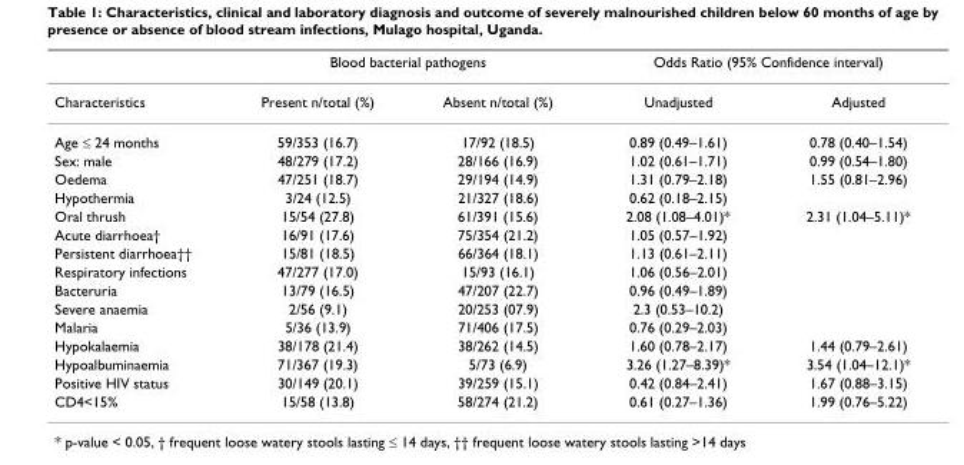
<table><thead><tr><td rowspan="2">Characteristics</td><td colspan="2">Blood bacterial pathogens</td><td colspan="2">Odds Ratio (95% Confidence interval)</td></tr><tr><td>Present n/total (%)</td><td>Absent n/total (%)</td><td>Unadjusted</td><td>Adjusted</td></tr></thead><tbody><tr><td>Age ≤ 24 months</td><td>59/353 (16.7)</td><td>17/92 (18.5)</td><td>0.89 (0.49–1.61)</td><td>0.78 (0.40–1.54)</td></tr><tr><td>Sex: male</td><td>48/279 (17.2)</td><td>28/166 (16.9)</td><td>1.02 (0.61–1.71)</td><td>0.99 (0.54–1.80)</td></tr><tr><td>Oedema</td><td>47/251 (18.7)</td><td>29/194 (14.9)</td><td>1.31 (0.79–2.18)</td><td>1.55 (0.81–2.96)</td></tr><tr><td>Hypothermia</td><td>3/24 (12.5)</td><td>21/327 (18.6)</td><td>0.62 (0.18–2.15)</td><td></td></tr><tr><td>Oral thrush</td><td>15/54 (27.8)</td><td>61/391 (15.6)</td><td>2.08 (1.08–4.01)*</td><td>2.31 (1.04–5.11)*</td></tr><tr><td>Acute diarrhoea†</td><td>16/91 (17.6)</td><td>75/354 (21.2)</td><td>1.05 (0.57–1.92)</td><td></td></tr><tr><td>Persistent diarrhoea††</td><td>15/81 (18.5)</td><td>66/364 (18.1)</td><td>1.13 (0.61–2.11)</td><td></td></tr><tr><td>Respiratory infections</td><td>47/277 (17.0)</td><td>15/93 (16.1)</td><td>1.06 (0.56–2.01)</td><td></td></tr><tr><td>Bacteruria</td><td>13/79 (16.5)</td><td>47/207 (22.7)</td><td>0.96 (0.49–1.89)</td><td></td></tr><tr><td>Severe anaemia</td><td>2/56 (9.1)</td><td>20/253 (07.9)</td><td>2.3 (0.53–10.2)</td><td></td></tr><tr><td>Malaria</td><td>5/36 (13.9)</td><td>71/406 (17.5)</td><td>0.76 (0.29–2.03)</td><td></td></tr><tr><td>Hypokalaemia</td><td>38/178 (21.4)</td><td>38/262 (14.5)</td><td>1.60 (0.78–2.17)</td><td>1.44 (0.79–2.61)</td></tr><tr><td>Hypoalbuminaemia</td><td>71/367 (19.3)</td><td>5/73 (6.9)</td><td>3.26 (1.27–8.39)*</td><td>3.54 (1.04–12.1)*</td></tr><tr><td>Positive HIV status</td><td>30/149 (20.1)</td><td>39/259 (15.1)</td><td>0.42 (0.84–2.41)</td><td>1.67 (0.88–3.15)</td></tr><tr><td>CD4&lt;15%</td><td>15/58 (13.8)</td><td>58/274 (21.2)</td><td>0.61 (0.27–1.36)</td><td>1.99 (0.76–5.22)</td></tr></tbody></table>